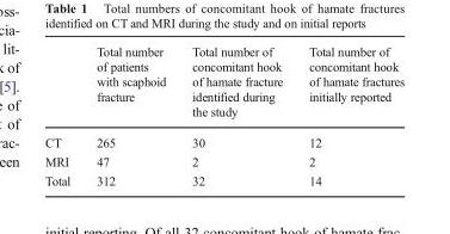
<table><thead><tr><td></td><td>Total number of patients with scaphoid fracture</td><td>Total number of concomitant hook of hamate fracture identified during the study</td><td>Total number of concomitant hook of hamate fractures initially reported</td></tr></thead><tbody><tr><td>CT</td><td>265</td><td>30</td><td>12</td></tr><tr><td>MRI</td><td>47</td><td>2</td><td>2</td></tr><tr><td>Total</td><td>312</td><td>32</td><td>14</td></tr></tbody></table>